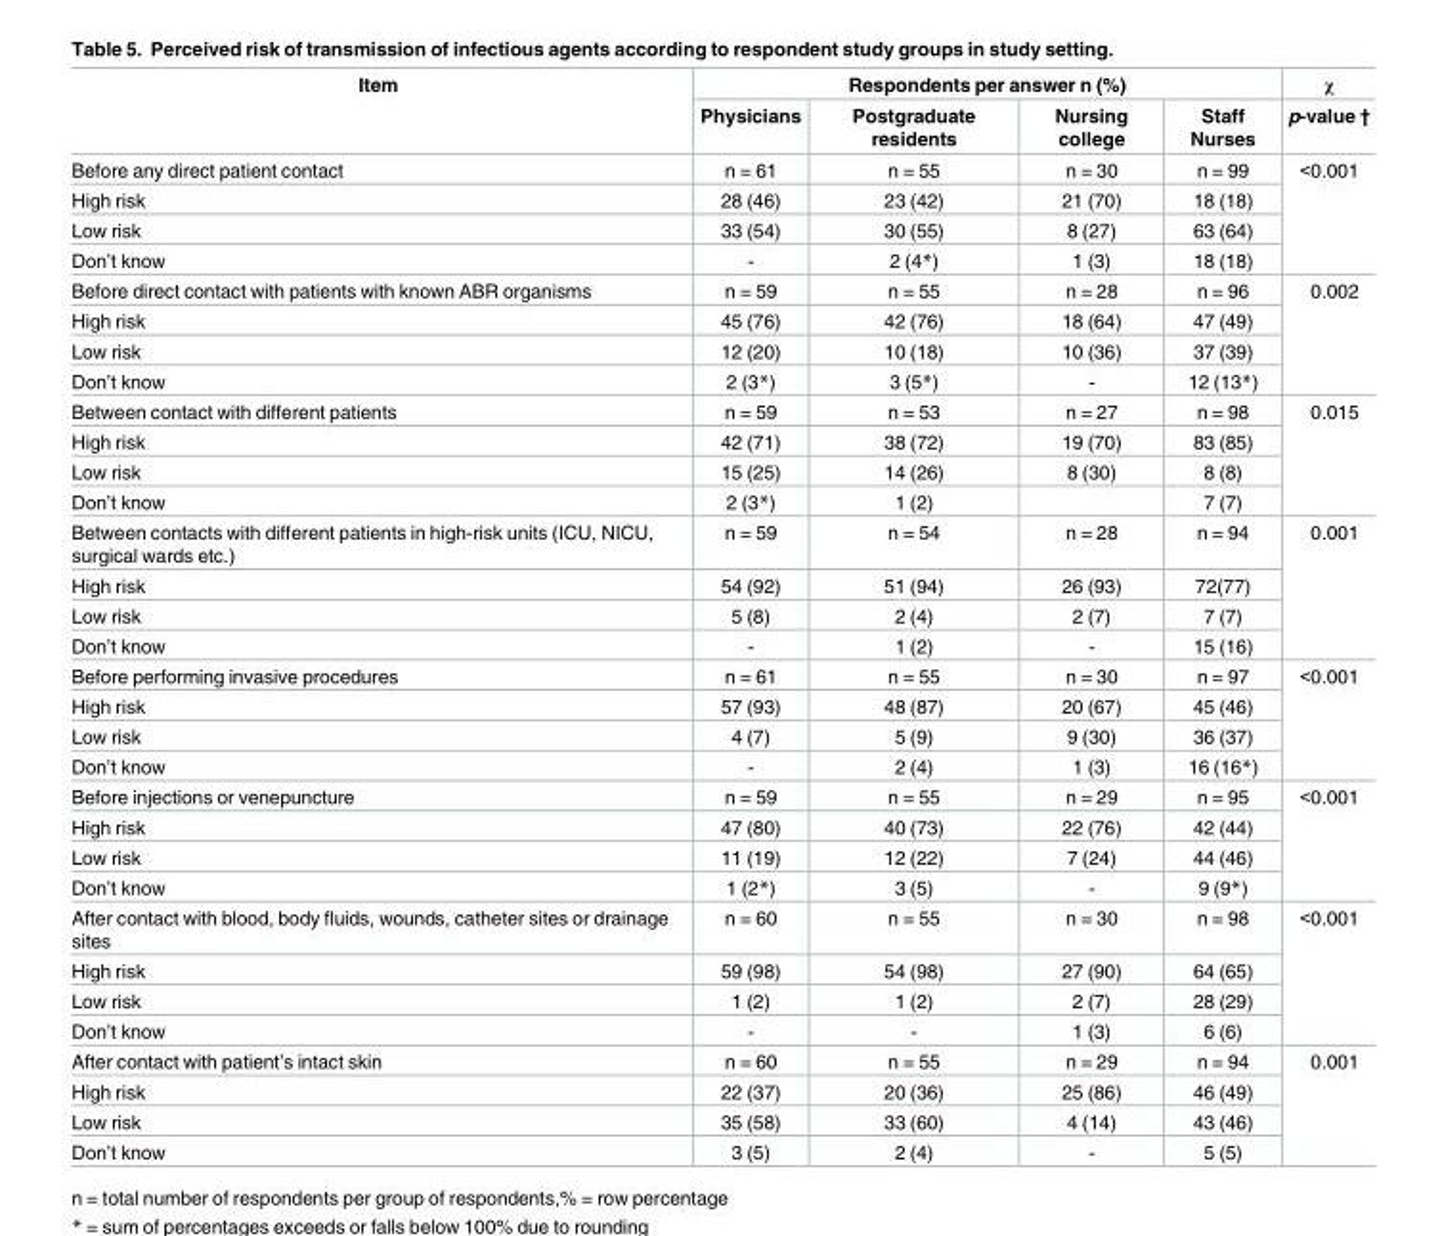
<table><thead><tr><td rowspan="2">Item</td><td colspan="4">Respondents per answer n (%)</td><td rowspan="2">χ p-value †</td></tr><tr><td>Physicians</td><td>Postgraduate residents</td><td>Nursing college</td><td>Staff Nurses</td></tr></thead><tbody><tr><td>Before any direct patient contact</td><td>n = 61</td><td>n = 55</td><td>n = 30</td><td>n = 99</td><td rowspan="4">&lt;0.001</td></tr><tr><td>High risk</td><td>28 (46)</td><td>23 (42)</td><td>21 (70)</td><td>18 (18)</td></tr><tr><td>Low risk</td><td>33 (54)</td><td>30 (55)</td><td>8 (27)</td><td>63 (64)</td></tr><tr><td>Don’t know</td><td>-</td><td>2 (4*)</td><td>1 (3)</td><td>18 (18)</td></tr><tr><td>Before direct contact with patients with known ABR organisms</td><td>n = 59</td><td>n = 55</td><td>n = 28</td><td>n = 96</td><td rowspan="4">0.002</td></tr><tr><td>High risk</td><td>45 (76)</td><td>42 (76)</td><td>18 (64)</td><td>47 (49)</td></tr><tr><td>Low risk</td><td>12 (20)</td><td>10 (18)</td><td>10 (36)</td><td>37 (39)</td></tr><tr><td>Don’t know</td><td>2 (3*)</td><td>3 (5*)</td><td>-</td><td>12 (13*)</td></tr><tr><td>Between contact with different patients</td><td>n = 59</td><td>n = 53</td><td>n = 27</td><td>n = 98</td><td rowspan="4">0.015</td></tr><tr><td>High risk</td><td>42 (71)</td><td>38 (72)</td><td>19 (70)</td><td>83 (85)</td></tr><tr><td>Low risk</td><td>15 (25)</td><td>14 (26)</td><td>8 (30)</td><td>8 (8)</td></tr><tr><td>Don’t know</td><td>2 (3*)</td><td>1 (2)</td><td></td><td>7 (7)</td></tr><tr><td>Between contacts with different patients in high-risk units (ICU, NICU, surgical wards etc.)</td><td>n = 59</td><td>n = 54</td><td>n = 28</td><td>n = 94</td><td rowspan="4">0.001</td></tr><tr><td>High risk</td><td>54 (92)</td><td>51 (94)</td><td>26 (93)</td><td>72(77)</td></tr><tr><td>Low risk</td><td>5 (8)</td><td>2 (4)</td><td>2 (7)</td><td>7 (7)</td></tr><tr><td>Don’t know</td><td>-</td><td>1 (2)</td><td>-</td><td>15 (16)</td></tr><tr><td>Before performing invasive procedures</td><td>n = 61</td><td>n = 55</td><td>n = 30</td><td>n = 97</td><td rowspan="4">&lt;0.001</td></tr><tr><td>High risk</td><td>57 (93)</td><td>48 (87)</td><td>20 (67)</td><td>45 (46)</td></tr><tr><td>Low risk</td><td>4 (7)</td><td>5 (9)</td><td>9 (30)</td><td>36 (37)</td></tr><tr><td>Don’t know</td><td>-</td><td>2 (4)</td><td>1 (3)</td><td>16 (16*)</td></tr><tr><td>Before injections or venepuncture</td><td>n = 59</td><td>n = 55</td><td>n = 29</td><td>n = 95</td><td rowspan="4">&lt;0.001</td></tr><tr><td>High risk</td><td>47 (80)</td><td>40 (73)</td><td>22 (76)</td><td>42 (44)</td></tr><tr><td>Low risk</td><td>11 (19)</td><td>12 (22)</td><td>7 (24)</td><td>44 (46)</td></tr><tr><td>Don’t know</td><td>1 (2*)</td><td>3 (5)</td><td>-</td><td>9 (9*)</td></tr><tr><td>After contact with blood, body fluids, wounds, catheter sites or drainage sites</td><td>n = 60</td><td>n = 55</td><td>n = 30</td><td>n = 98</td><td rowspan="4">&lt;0.001</td></tr><tr><td>High risk</td><td>59 (98)</td><td>54 (98)</td><td>27 (90)</td><td>64 (65)</td></tr><tr><td>Low risk</td><td>1 (2)</td><td>1 (2)</td><td>2 (7)</td><td>28 (29)</td></tr><tr><td>Don’t know</td><td>-</td><td>-</td><td>1 (3)</td><td>6 (6)</td></tr><tr><td>After contact with patient’s intact skin</td><td>n = 60</td><td>n = 55</td><td>n = 29</td><td>n = 94</td><td rowspan="4">0.001</td></tr><tr><td>High risk</td><td>22 (37)</td><td>20 (36)</td><td>25 (86)</td><td>46 (49)</td></tr><tr><td>Low risk</td><td>35 (58)</td><td>33 (60)</td><td>4 (14)</td><td>43 (46)</td></tr><tr><td>Don’t know</td><td>3 (5)</td><td>2 (4)</td><td>-</td><td>5 (5)</td></tr></tbody></table>